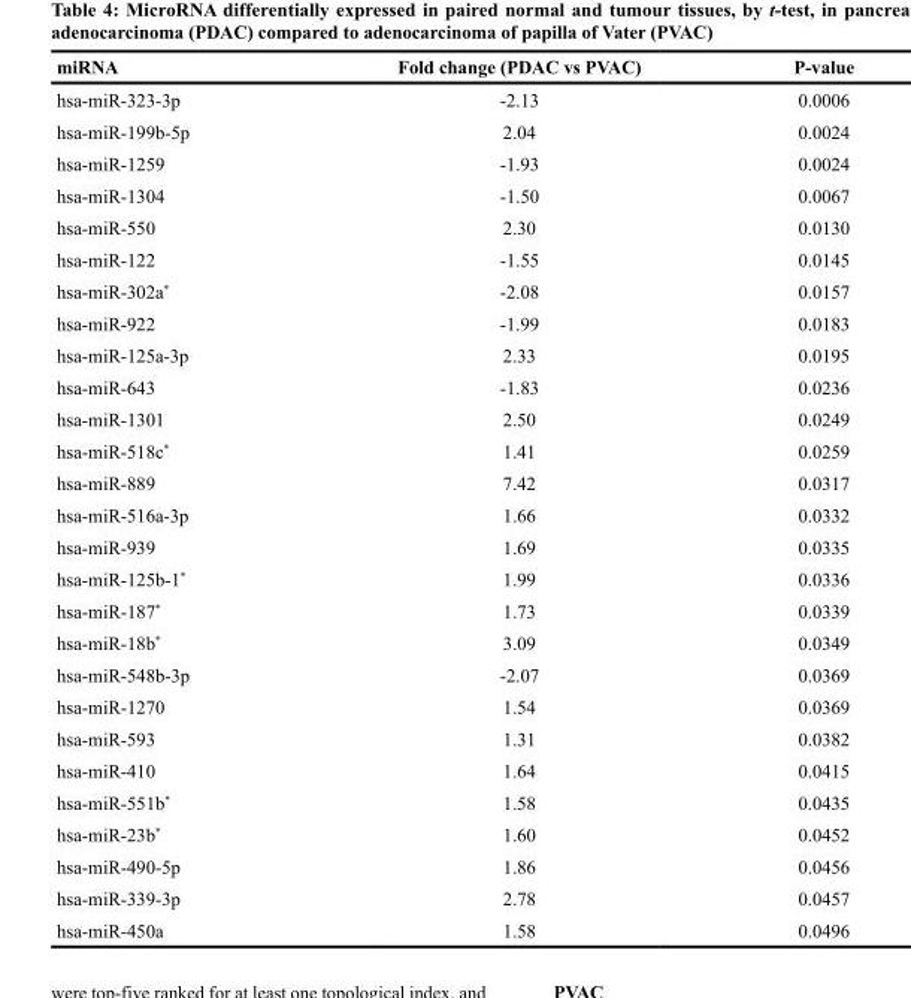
<table><thead><tr><td>miRNA</td><td>Fold change (PDAC vs PVAC)</td><td>P-value</td></tr></thead><tbody><tr><td>hsa-miR-323-3p</td><td>-2.13</td><td>0.0006</td></tr><tr><td>hsa-miR-199b-5p</td><td>2.04</td><td>0.0024</td></tr><tr><td>hsa-miR-1259</td><td>-1.93</td><td>0.0024</td></tr><tr><td>hsa-miR-1304</td><td>-1.50</td><td>0.0067</td></tr><tr><td>hsa-miR-550</td><td>2.30</td><td>0.0130</td></tr><tr><td>hsa-miR-122</td><td>-1.55</td><td>0.0145</td></tr><tr><td>hsa-miR-302a*</td><td>-2.08</td><td>0.0157</td></tr><tr><td>hsa-miR-922</td><td>-1.99</td><td>0.0183</td></tr><tr><td>hsa-miR-125a-3p</td><td>2.33</td><td>0.0195</td></tr><tr><td>hsa-miR-643</td><td>-1.83</td><td>0.0236</td></tr><tr><td>hsa-miR-1301</td><td>2.50</td><td>0.0249</td></tr><tr><td>hsa-miR-518c*</td><td>1.41</td><td>0.0259</td></tr><tr><td>hsa-miR-889</td><td>7.42</td><td>0.0317</td></tr><tr><td>hsa-miR-516a-3p</td><td>1.66</td><td>0.0332</td></tr><tr><td>hsa-miR-939</td><td>1.69</td><td>0.0335</td></tr><tr><td>hsa-miR-125b-1*</td><td>1.99</td><td>0.0336</td></tr><tr><td>hsa-miR-187*</td><td>1.73</td><td>0.0339</td></tr><tr><td>hsa-miR-18b*</td><td>3.09</td><td>0.0349</td></tr><tr><td>hsa-miR-548b-3p</td><td>-2.07</td><td>0.0369</td></tr><tr><td>hsa-miR-1270</td><td>1.54</td><td>0.0369</td></tr><tr><td>hsa-miR-593</td><td>1.31</td><td>0.0382</td></tr><tr><td>hsa-miR-410</td><td>1.64</td><td>0.0415</td></tr><tr><td>hsa-miR-551b*</td><td>1.58</td><td>0.0435</td></tr><tr><td>hsa-miR-23b*</td><td>1.60</td><td>0.0452</td></tr><tr><td>hsa-miR-490-5p</td><td>1.86</td><td>0.0456</td></tr><tr><td>hsa-miR-339-3p</td><td>2.78</td><td>0.0457</td></tr><tr><td>hsa-miR-450a</td><td>1.58</td><td>0.0496</td></tr></tbody></table>